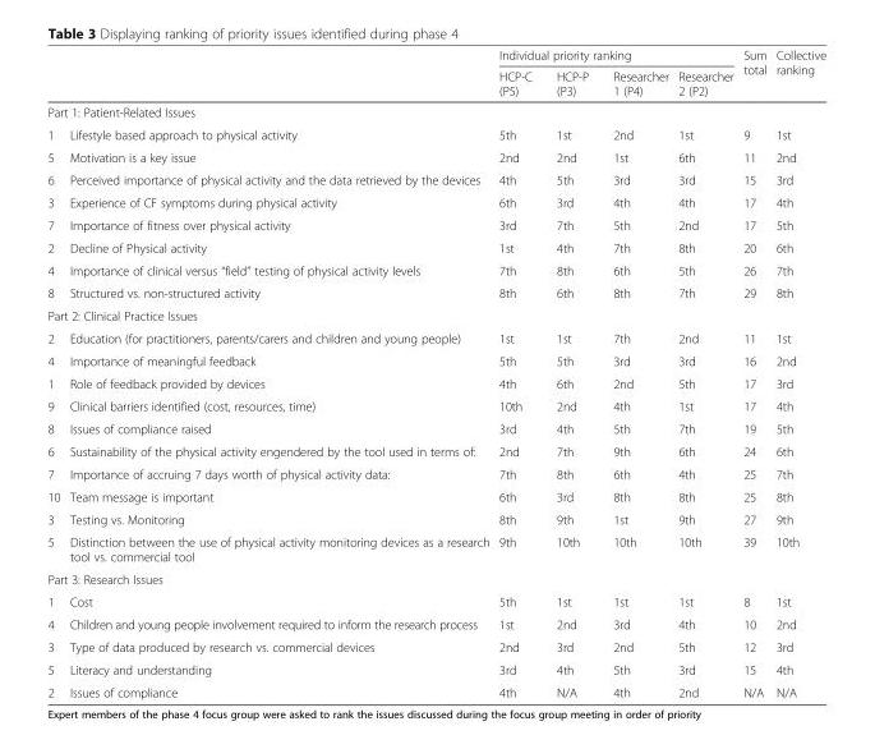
<table><thead><tr><td rowspan="2"></td><td rowspan="2"></td><td colspan="4">Individual priority ranking</td><td rowspan="2">Sum total</td><td rowspan="2">Collective ranking</td></tr><tr><td>HCP-C (P5)</td><td>HCP-P (P3)</td><td>Researcher 1 (P4)</td><td>Researcher 2 (P2)</td></tr></thead><tbody><tr><td colspan="8">Part 1: Patient-Related Issues</td></tr><tr><td>1</td><td>Lifestyle based approach to physical activity</td><td>5th</td><td>1st</td><td>2nd</td><td>1st</td><td>9</td><td>1st</td></tr><tr><td>5</td><td>Motivation is a key issue</td><td>2nd</td><td>2nd</td><td>1st</td><td>6th</td><td>11</td><td>2nd</td></tr><tr><td>6</td><td>Perceived importance of physical activity and the data retrieved by the devices</td><td>4th</td><td>5th</td><td>3rd</td><td>3rd</td><td>15</td><td>3rd</td></tr><tr><td>3</td><td>Experience of CF symptoms during physical activity</td><td>6th</td><td>3rd</td><td>4th</td><td>4th</td><td>17</td><td>4th</td></tr><tr><td>7</td><td>Importance of fitness over physical activity</td><td>3rd</td><td>7th</td><td>5th</td><td>2nd</td><td>17</td><td>5th</td></tr><tr><td>2</td><td>Decline of Physical activity</td><td>1st</td><td>4th</td><td>7th</td><td>8th</td><td>20</td><td>6th</td></tr><tr><td>4</td><td>Importance of clinical versus “field” testing of physical activity levels</td><td>7th</td><td>8th</td><td>6th</td><td>5th</td><td>26</td><td>7th</td></tr><tr><td>8</td><td>Structured vs. non-structured activity</td><td>8th</td><td>6th</td><td>8th</td><td>7th</td><td>29</td><td>8th</td></tr><tr><td colspan="8">Part 2: Clinical Practice Issues</td></tr><tr><td>2</td><td>Education (for practitioners, parents/carers and children and young people)</td><td>1st</td><td>1st</td><td>7th</td><td>2nd</td><td>11</td><td>1st</td></tr><tr><td>4</td><td>Importance of meaningful feedback</td><td>5th</td><td>5th</td><td>3rd</td><td>3rd</td><td>16</td><td>2nd</td></tr><tr><td>1</td><td>Role of feedback provided by devices</td><td>4th</td><td>6th</td><td>2nd</td><td>5th</td><td>17</td><td>3rd</td></tr><tr><td>9</td><td>Clinical barriers identified (cost, resources, time)</td><td>10th</td><td>2nd</td><td>4th</td><td>1st</td><td>17</td><td>4th</td></tr><tr><td>8</td><td>Issues of compliance raised</td><td>3rd</td><td>4th</td><td>5th</td><td>7th</td><td>19</td><td>5th</td></tr><tr><td>6</td><td>Sustainability of the physical activity engendered by the tool used in terms of:</td><td>2nd</td><td>7th</td><td>9th</td><td>6th</td><td>24</td><td>6th</td></tr><tr><td>7</td><td>Importance of accruing 7 days worth of physical activity data:</td><td>7th</td><td>8th</td><td>6th</td><td>4th</td><td>25</td><td>7th</td></tr><tr><td>10</td><td>Team message is important</td><td>6th</td><td>3rd</td><td>8th</td><td>8th</td><td>25</td><td>8th</td></tr><tr><td>3</td><td>Testing vs. Monitoring</td><td>8th</td><td>9th</td><td>1st</td><td>9th</td><td>27</td><td>9th</td></tr><tr><td>5</td><td>Distinction between the use of physical activity monitoring devices as a research tool vs. commercial tool</td><td>9th</td><td>10th</td><td>10th</td><td>10th</td><td>39</td><td>10th</td></tr><tr><td colspan="8">Part 3: Research Issues</td></tr><tr><td>1</td><td>Cost</td><td>5th</td><td>1st</td><td>1st</td><td>1st</td><td>8</td><td>1st</td></tr><tr><td>4</td><td>Children and young people involvement required to inform the research process</td><td>1st</td><td>2nd</td><td>3rd</td><td>4th</td><td>10</td><td>2nd</td></tr><tr><td>3</td><td>Type of data produced by research vs. commercial devices</td><td>2nd</td><td>3rd</td><td>2nd</td><td>5th</td><td>12</td><td>3rd</td></tr><tr><td>5</td><td>Literacy and understanding</td><td>3rd</td><td>4th</td><td>5th</td><td>3rd</td><td>15</td><td>4th</td></tr><tr><td>2</td><td>Issues of compliance</td><td>4th</td><td>N/A</td><td>4th</td><td>2nd</td><td>N/A</td><td>N/A</td></tr></tbody></table>